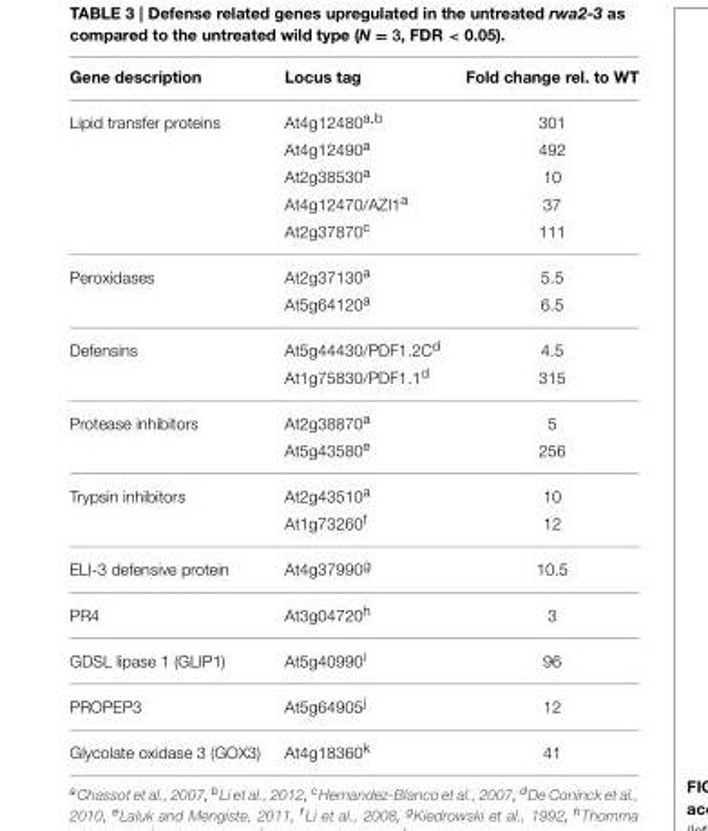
<table><thead><tr><td>Gene description</td><td>Locus tag</td><td>Fold change rel. to WT</td></tr></thead><tbody><tr><td rowspan="5">Lipid transfer proteins</td><td>At4g12480<sup>a</sup>,<sup>b</sup></td><td>301</td></tr><tr><td>At4g12490<sup>a</sup></td><td>492</td></tr><tr><td>At2g38530<sup>a</sup></td><td>10</td></tr><tr><td>At4g12470/AZI1<sup>a</sup></td><td>37</td></tr><tr><td>At2g37870<sup>c</sup></td><td>111</td></tr><tr><td rowspan="2">Peroxidases</td><td>At2g37130<sup>a</sup></td><td>5.5</td></tr><tr><td>At5g64120<sup>a</sup></td><td>6.5</td></tr><tr><td rowspan="2">Defensins</td><td>At5g44430/PDF1.2C<sup>d</sup></td><td>4.5</td></tr><tr><td>At1g75830/PDF1.1<sup>d</sup></td><td>315</td></tr><tr><td rowspan="2">Protease inhibitors</td><td>At2g38870<sup>a</sup></td><td>5</td></tr><tr><td>At5g43580<sup>e</sup></td><td>256</td></tr><tr><td rowspan="2">Trypsin inhibitors</td><td>At2g43510<sup>a</sup></td><td>10</td></tr><tr><td>At1g73260<sup>f</sup></td><td>12</td></tr><tr><td>ELI-3 defensive protein</td><td>At4g37990<sup>g</sup></td><td>10.5</td></tr><tr><td>PR4</td><td>At3g04720<sup>h</sup></td><td>3</td></tr><tr><td>GDSL lipase 1 (GLIP1)</td><td>At5g40990<sup>i</sup></td><td>96</td></tr><tr><td>PROPEP3</td><td>At5g64905<sup>j</sup></td><td>12</td></tr><tr><td>Glycolate oxidase 3 (GOX3)</td><td>At4g18360<sup>k</sup></td><td>41</td></tr></tbody></table>